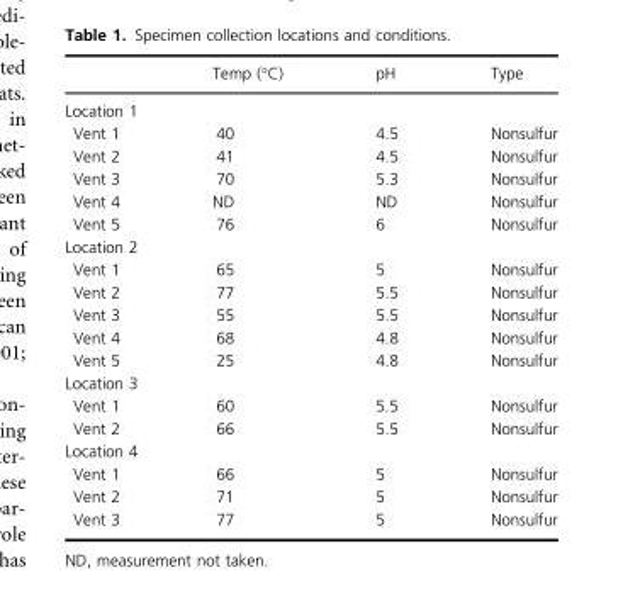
<table><thead><tr><td></td><td>Temp (°C)</td><td>pH</td><td>Type</td></tr></thead><tbody><tr><td colspan="4">Location 1</td></tr><tr><td>Vent 1</td><td>40</td><td>4.5</td><td>Nonsulfur</td></tr><tr><td>Vent 2</td><td>41</td><td>4.5</td><td>Nonsulfur</td></tr><tr><td>Vent 3</td><td>70</td><td>5.3</td><td>Nonsulfur</td></tr><tr><td>Vent 4</td><td>ND</td><td>ND</td><td>Nonsulfur</td></tr><tr><td>Vent 5</td><td>76</td><td>6</td><td>Nonsulfur</td></tr><tr><td colspan="4">Location 2</td></tr><tr><td>Vent 1</td><td>65</td><td>5</td><td>Nonsulfur</td></tr><tr><td>Vent 2</td><td>77</td><td>5.5</td><td>Nonsulfur</td></tr><tr><td>Vent 3</td><td>55</td><td>5.5</td><td>Nonsulfur</td></tr><tr><td>Vent 4</td><td>68</td><td>4.8</td><td>Nonsulfur</td></tr><tr><td>Vent 5</td><td>25</td><td>4.8</td><td>Nonsulfur</td></tr><tr><td colspan="4">Location 3</td></tr><tr><td>Vent 1</td><td>60</td><td>5.5</td><td>Nonsulfur</td></tr><tr><td>Vent 2</td><td>66</td><td>5.5</td><td>Nonsulfur</td></tr><tr><td colspan="4">Location 4</td></tr><tr><td>Vent 1</td><td>66</td><td>5</td><td>Nonsulfur</td></tr><tr><td>Vent 2</td><td>71</td><td>5</td><td>Nonsulfur</td></tr><tr><td>Vent 3</td><td>77</td><td>5</td><td>Nonsulfur</td></tr></tbody></table>